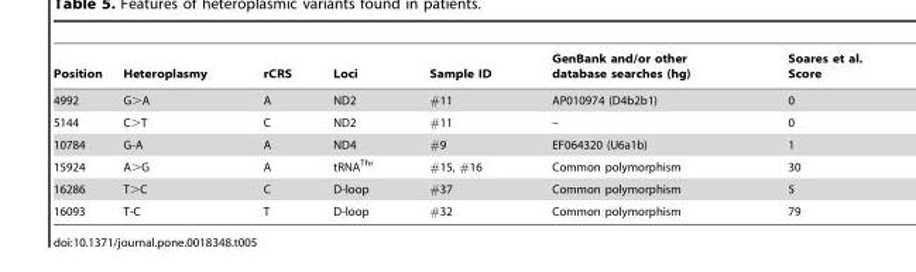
<table><thead><tr><td>Position</td><td>Heteroplasmy</td><td>rCRS</td><td>Loci</td><td>Sample ID</td><td>GenBank and/or other database searches (hg)</td><td>Soares et al. Score</td></tr></thead><tbody><tr><td>4992</td><td>G&gt;A</td><td>A</td><td>ND2</td><td>#11</td><td>AP010974 (D4b2b1)</td><td>0</td></tr><tr><td>5144</td><td>C&gt;T</td><td>C</td><td>ND2</td><td>#11</td><td>–</td><td>0</td></tr><tr><td>10784</td><td>G-A</td><td>A</td><td>ND4</td><td>#9</td><td>EF064320 (U6a1b)</td><td>1</td></tr><tr><td>15924</td><td>A&gt;G</td><td>A</td><td>tRNA<sup>Thr</sup></td><td>#15, #16</td><td>Common polymorphism</td><td>30</td></tr><tr><td>16286</td><td>T&gt;C</td><td>C</td><td>D-loop</td><td>#37</td><td>Common polymorphism</td><td>5</td></tr><tr><td>16093</td><td>T-C</td><td>T</td><td>D-loop</td><td>#32</td><td>Common polymorphism</td><td>79</td></tr></tbody></table>